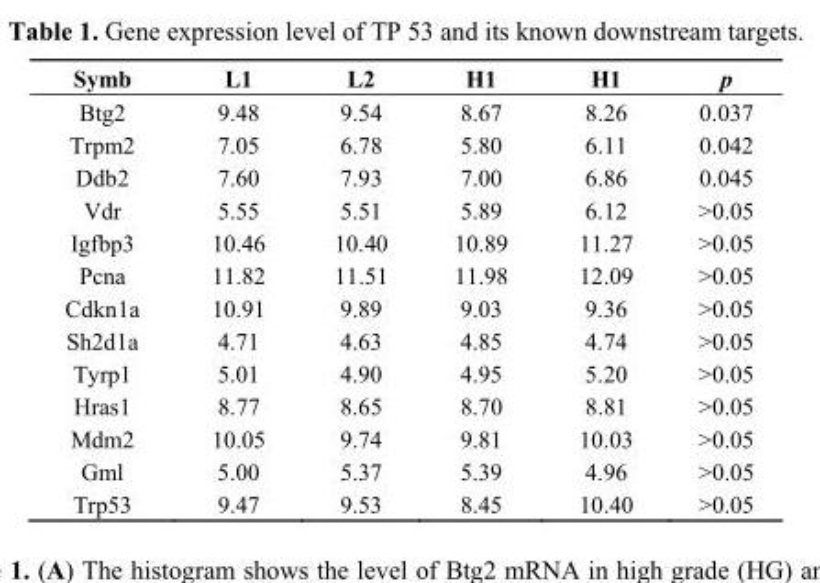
<table><thead><tr><td>Symb</td><td>L1</td><td>L2</td><td>H1</td><td>H1</td><td>p</td></tr></thead><tbody><tr><td>Btg2</td><td>9.48</td><td>9.54</td><td>8.67</td><td>8.26</td><td>0.037</td></tr><tr><td>Trpm2</td><td>7.05</td><td>6.78</td><td>5.80</td><td>6.11</td><td>0.042</td></tr><tr><td>Ddb2</td><td>7.60</td><td>7.93</td><td>7.00</td><td>6.86</td><td>0.045</td></tr><tr><td>Vdr</td><td>5.55</td><td>5.51</td><td>5.89</td><td>6.12</td><td>&gt;0.05</td></tr><tr><td>Igfbp3</td><td>10.46</td><td>10.40</td><td>10.89</td><td>11.27</td><td>&gt;0.05</td></tr><tr><td>Pcna</td><td>11.82</td><td>11.51</td><td>11.98</td><td>12.09</td><td>&gt;0.05</td></tr><tr><td>Cdkn1a</td><td>10.91</td><td>9.89</td><td>9.03</td><td>9.36</td><td>&gt;0.05</td></tr><tr><td>Sh2d1a</td><td>4.71</td><td>4.63</td><td>4.85</td><td>4.74</td><td>&gt;0.05</td></tr><tr><td>Tyrp1</td><td>5.01</td><td>4.90</td><td>4.95</td><td>5.20</td><td>&gt;0.05</td></tr><tr><td>Hras1</td><td>8.77</td><td>8.65</td><td>8.70</td><td>8.81</td><td>&gt;0.05</td></tr><tr><td>Mdm2</td><td>10.05</td><td>9.74</td><td>9.81</td><td>10.03</td><td>&gt;0.05</td></tr><tr><td>Gml</td><td>5.00</td><td>5.37</td><td>5.39</td><td>4.96</td><td>&gt;0.05</td></tr><tr><td>Trp53</td><td>9.47</td><td>9.53</td><td>8.45</td><td>10.40</td><td>&gt;0.05</td></tr></tbody></table>